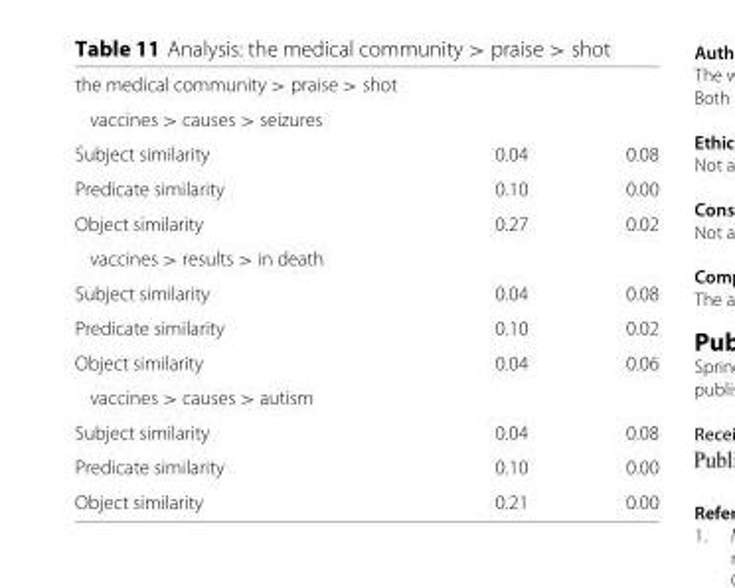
<table><tbody><tr><td colspan="3">the medical community &gt; praise &gt; shot</td></tr><tr><td colspan="3">vaccines &gt; causes &gt; seizures</td></tr><tr><td>Subject similarity</td><td>0.04</td><td>0.08</td></tr><tr><td>Predicate similarity</td><td>0.10</td><td>0.00</td></tr><tr><td>Object similarity</td><td>0.27</td><td>0.02</td></tr><tr><td colspan="3">vaccines &gt; results &gt; in death</td></tr><tr><td>Subject similarity</td><td>0.04</td><td>0.08</td></tr><tr><td>Predicate similarity</td><td>0.10</td><td>0.02</td></tr><tr><td>Object similarity</td><td>0.04</td><td>0.06</td></tr><tr><td colspan="3">vaccines &gt; causes &gt; autism</td></tr><tr><td>Subject similarity</td><td>0.04</td><td>0.08</td></tr><tr><td>Predicate similarity</td><td>0.10</td><td>0.00</td></tr><tr><td>Object similarity</td><td>0.21</td><td>0.00</td></tr></tbody></table>